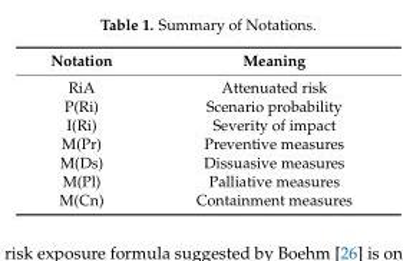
<table><thead><tr><td>Notation</td><td>Meaning</td></tr></thead><tbody><tr><td>RiA</td><td>Attenuated risk</td></tr><tr><td>P(Ri)</td><td>Scenario probability</td></tr><tr><td>I(Ri)</td><td>Severity of impact</td></tr><tr><td>M(Pr)</td><td>Preventive measures</td></tr><tr><td>M(Ds)</td><td>Dissuasive measures</td></tr><tr><td>M(Pl)</td><td>Palliative measures</td></tr><tr><td>M(Cn)</td><td>Containment measures</td></tr></tbody></table>